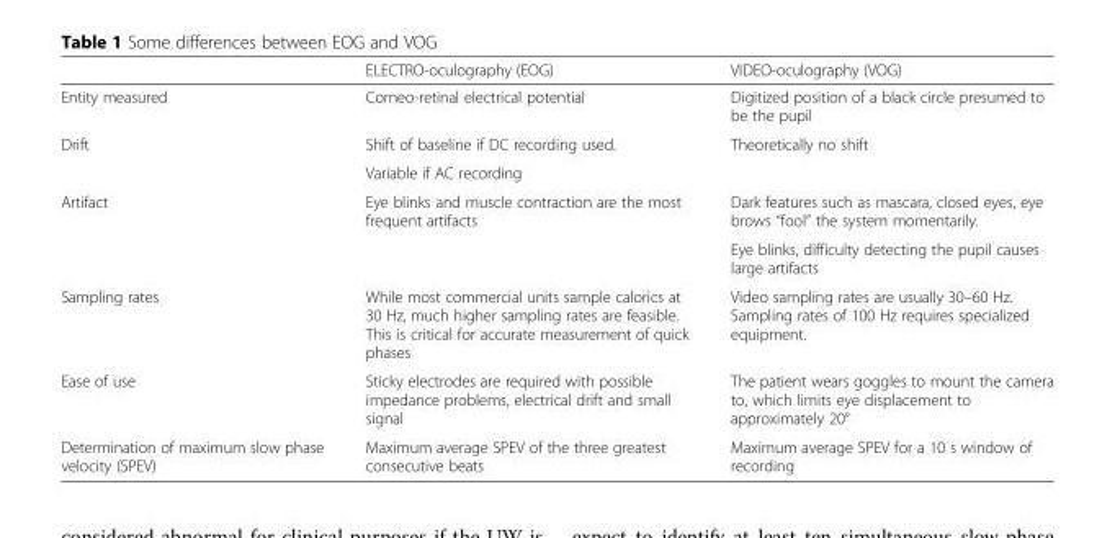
<table><thead><tr><td></td><td>ELECTRO-oculography (EOG)</td><td>VIDEO-oculography (VOG)</td></tr></thead><tbody><tr><td>Entity measured</td><td>Corneo-retinal electrical potential</td><td>Digitized position of a black circle presumed to be the pupil</td></tr><tr><td rowspan="2">Drift</td><td>Shift of baseline if DC recording used.</td><td rowspan="2">Theoretically no shift</td></tr><tr><td>Variable if AC recording</td></tr><tr><td rowspan="2">Artifact</td><td rowspan="2">Eye blinks and muscle contraction are the most frequent artifacts</td><td>Dark features such as mascara, closed eyes, eye brows “fool” the system momentarily.</td></tr><tr><td>Eye blinks, difficulty detecting the pupil causes large artifacts</td></tr><tr><td>Sampling rates</td><td>While most commercial units sample calorics at 30 Hz, much higher sampling rates are feasible. This is critical for accurate measurement of quick phases</td><td>Video sampling rates are usually 30–60 Hz. Sampling rates of 100 Hz requires specialized equipment.</td></tr><tr><td>Ease of use</td><td>Sticky electrodes are required with possible impedance problems, electrical drift and small signal</td><td>The patient wears goggles to mount the camera to, which limits eye displacement to approximately 20°</td></tr><tr><td>Determination of maximum slow phase velocity (SPEV)</td><td>Maximum average SPEV of the three greatest consecutive beats</td><td>Maximum average SPEV for a 10 s window of recording</td></tr></tbody></table>